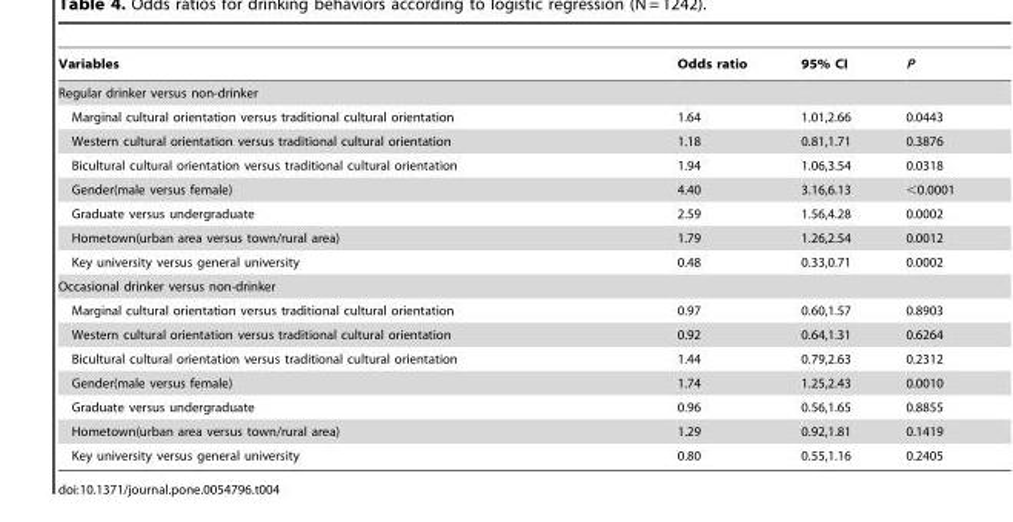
<table><thead><tr><td>Variables</td><td>Odds ratio</td><td>95% CI</td><td>P</td></tr></thead><tbody><tr><td colspan="4">Regular drinker versus non-drinker</td></tr><tr><td>Marginal cultural orientation versus traditional cultural orientation</td><td>1.64</td><td>1.01,2.66</td><td>0.0443</td></tr><tr><td>Western cultural orientation versus traditional cultural orientation</td><td>1.18</td><td>0.81,1.71</td><td>0.3876</td></tr><tr><td>Bicultural cultural orientation versus traditional cultural orientation</td><td>1.94</td><td>1.06,3.54</td><td>0.0318</td></tr><tr><td>Gender(male versus female)</td><td>4.40</td><td>3.16,6.13</td><td>&lt;0.0001</td></tr><tr><td>Graduate versus undergraduate</td><td>2.59</td><td>1.56,4.28</td><td>0.0002</td></tr><tr><td>Hometown(urban area versus town/rural area)</td><td>1.79</td><td>1.26,2.54</td><td>0.0012</td></tr><tr><td>Key university versus general university</td><td>0.48</td><td>0.33,0.71</td><td>0.0002</td></tr><tr><td colspan="4">Occasional drinker versus non-drinker</td></tr><tr><td>Marginal cultural orientation versus traditional cultural orientation</td><td>0.97</td><td>0.60,1.57</td><td>0.8903</td></tr><tr><td>Western cultural orientation versus traditional cultural orientation</td><td>0.92</td><td>0.64,1.31</td><td>0.6264</td></tr><tr><td>Bicultural cultural orientation versus traditional cultural orientation</td><td>1.44</td><td>0.79,2.63</td><td>0.2312</td></tr><tr><td>Gender(male versus female)</td><td>1.74</td><td>1.25,2.43</td><td>0.0010</td></tr><tr><td>Graduate versus undergraduate</td><td>0.96</td><td>0.56,1.65</td><td>0.8855</td></tr><tr><td>Hometown(urban area versus town/rural area)</td><td>1.29</td><td>0.92,1.81</td><td>0.1419</td></tr><tr><td>Key university versus general university</td><td>0.80</td><td>0.55,1.16</td><td>0.2405</td></tr></tbody></table>